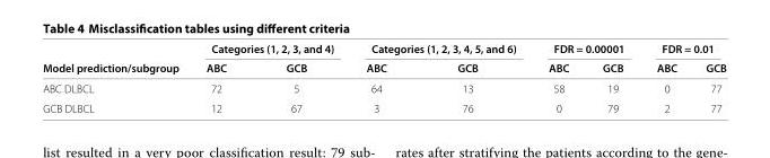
<table><thead><tr><td rowspan="2">Model prediction/subgroup</td><td colspan="2">Categories (1, 2, 3, and 4)</td><td colspan="2">Categories (1, 2, 3, 4, 5, and 6)</td><td colspan="2">FDR = 0.00001</td><td colspan="2">FDR = 0.01</td></tr><tr><td>ABC</td><td>GCB</td><td>ABC</td><td>GCB</td><td>ABC</td><td>GCB</td><td>ABC</td><td>GCB</td></tr></thead><tbody><tr><td>ABC DLBCL</td><td>72</td><td>5</td><td>64</td><td>13</td><td>58</td><td>19</td><td>0</td><td>77</td></tr><tr><td>GCB DLBCL</td><td>12</td><td>67</td><td>3</td><td>76</td><td>0</td><td>79</td><td>2</td><td>77</td></tr></tbody></table>